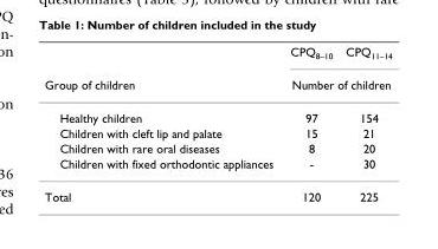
<table><thead><tr><td rowspan="2">Group of children</td><td>CPQ<sub>8–10</sub></td><td>CPQ<sub>11–14</sub></td></tr><tr><td colspan="2">Number of children</td></tr></thead><tbody><tr><td>Healthy children</td><td>97</td><td>154</td></tr><tr><td>Children with cleft lip and palate</td><td>15</td><td>21</td></tr><tr><td>Children with rare oral diseases</td><td>8</td><td>20</td></tr><tr><td>Children with fixed orthodontic appliances</td><td>-</td><td>30</td></tr><tr><td>Total</td><td>120</td><td>225</td></tr></tbody></table>